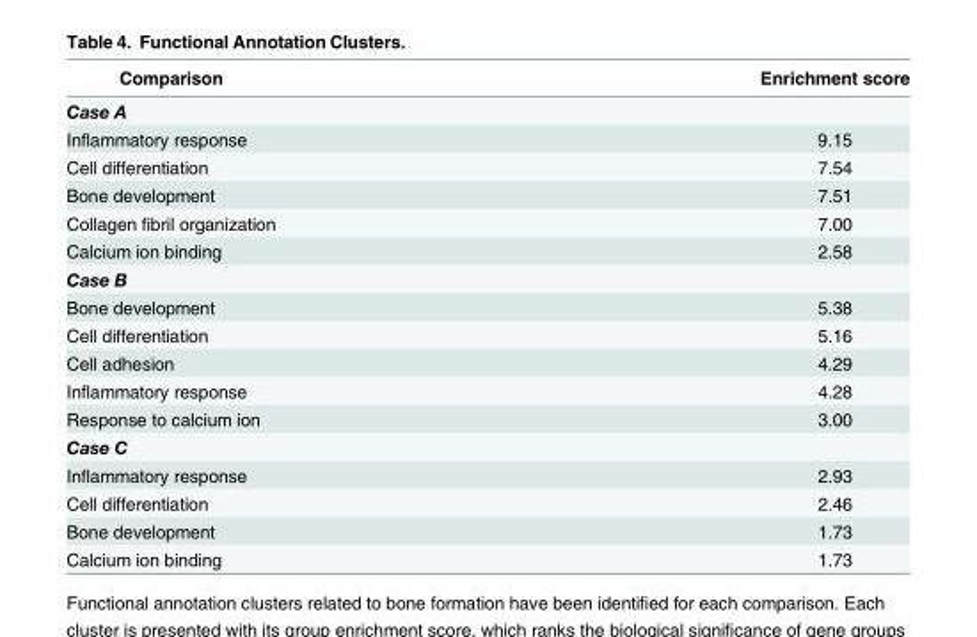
<table><thead><tr><td>Comparison</td><td>Enrichment score</td></tr></thead><tbody><tr><td colspan="2">Case A</td></tr><tr><td>Inflammatory response</td><td>9.15</td></tr><tr><td>Cell differentiation</td><td>7.54</td></tr><tr><td>Bone development</td><td>7.51</td></tr><tr><td>Collagen fibril organization</td><td>7.00</td></tr><tr><td>Calcium ion binding</td><td>2.58</td></tr><tr><td colspan="2">Case B</td></tr><tr><td>Bone development</td><td>5.38</td></tr><tr><td>Cell differentiation</td><td>5.16</td></tr><tr><td>Cell adhesion</td><td>4.29</td></tr><tr><td>Inflammatory response</td><td>4.28</td></tr><tr><td>Response to calcium ion</td><td>3.00</td></tr><tr><td colspan="2">Case C</td></tr><tr><td>Inflammatory response</td><td>2.93</td></tr><tr><td>Cell differentiation</td><td>2.46</td></tr><tr><td>Bone development</td><td>1.73</td></tr><tr><td>Calcium ion binding</td><td>1.73</td></tr></tbody></table>